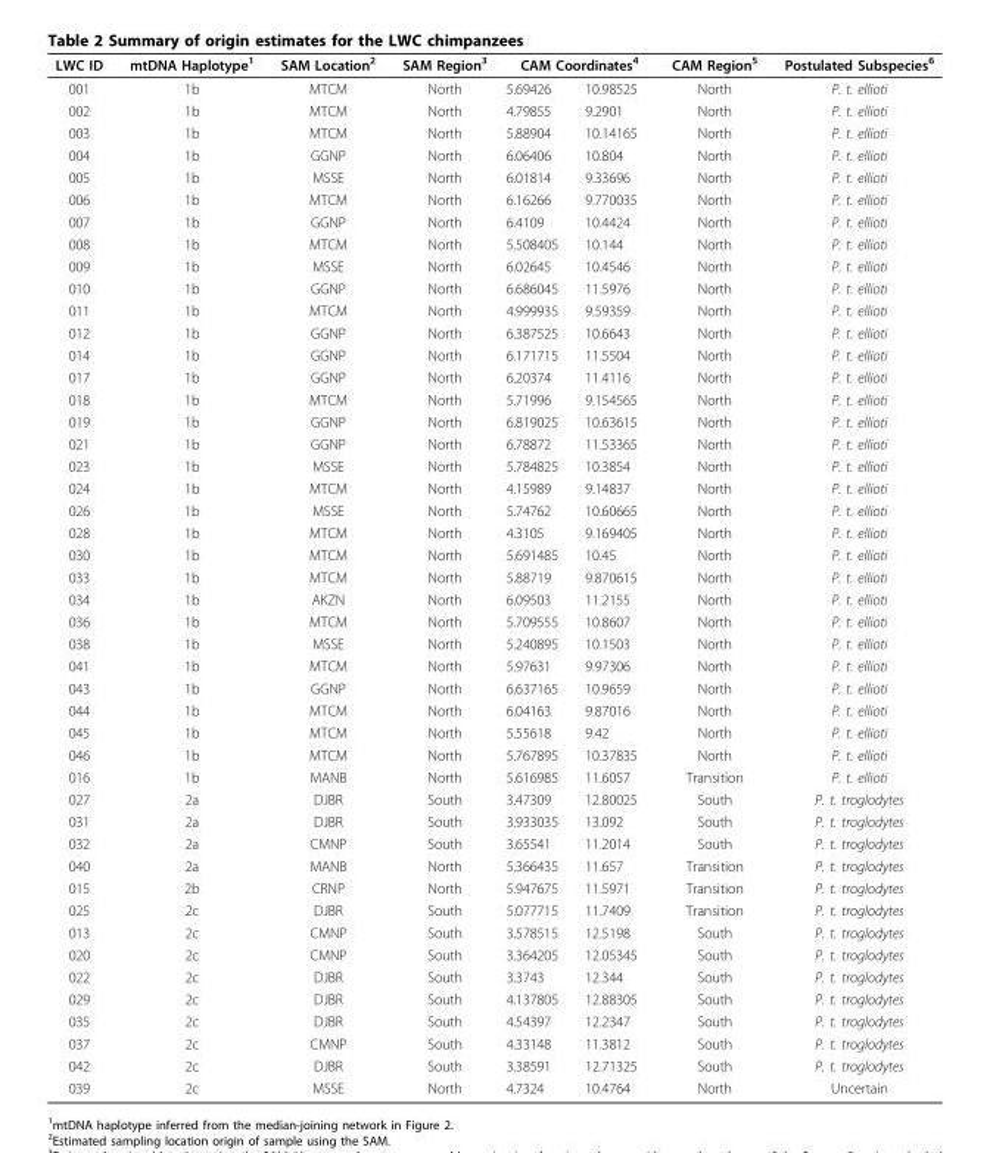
<table><thead><tr><td rowspan="2">LWC ID 001</td><td rowspan="2">mtDNA Haplotype<sup>1</sup> 1b</td><td rowspan="2">SAM Location<sup>2</sup> MTCM</td><td rowspan="2">SAM Region<sup>3</sup> North</td><td colspan="2">CAM Coordinates<sup>4</sup></td><td rowspan="2">CAM Region<sup>5</sup> North</td><td rowspan="2">Postulated Subspecies<sup>6</sup> P. t. ellioti</td></tr><tr><td>5.69426</td><td>10.98525</td></tr></thead><tbody><tr><td>002</td><td>1b</td><td>MTCM</td><td>North</td><td>4.79855</td><td>9.2901</td><td>North</td><td>P. t. ellioti</td></tr><tr><td>003</td><td>1b</td><td>MTCM</td><td>North</td><td>5.88904</td><td>10.14165</td><td>North</td><td>P. t. ellioti</td></tr><tr><td>004</td><td>1b</td><td>GGNP</td><td>North</td><td>6.06406</td><td>10.804</td><td>North</td><td>P. t. ellioti</td></tr><tr><td>005</td><td>1b</td><td>MSSE</td><td>North</td><td>6.01814</td><td>9.33696</td><td>North</td><td>P. t. ellioti</td></tr><tr><td>006</td><td>1b</td><td>MTCM</td><td>North</td><td>6.16266</td><td>9.770035</td><td>North</td><td>P. t. ellioti</td></tr><tr><td>007</td><td>1b</td><td>GGNP</td><td>North</td><td>6.4109</td><td>10.4424</td><td>North</td><td>P. t. ellioti</td></tr><tr><td>008</td><td>1b</td><td>MTCM</td><td>North</td><td>5.508405</td><td>10.144</td><td>North</td><td>P. t. ellioti</td></tr><tr><td>009</td><td>1b</td><td>MSSE</td><td>North</td><td>6.02645</td><td>10.4546</td><td>North</td><td>P. t. ellioti</td></tr><tr><td>010</td><td>1b</td><td>GGNP</td><td>North</td><td>6.686045</td><td>11.5976</td><td>North</td><td>P. t. ellioti</td></tr><tr><td>011</td><td>1b</td><td>MTCM</td><td>North</td><td>4.999935</td><td>9.59359</td><td>North</td><td>P. t. ellioti</td></tr><tr><td>012</td><td>1b</td><td>GGNP</td><td>North</td><td>6.387525</td><td>10.6643</td><td>North</td><td>P. t. ellioti</td></tr><tr><td>014</td><td>1b</td><td>GGNP</td><td>North</td><td>6.171715</td><td>11.5504</td><td>North</td><td>P. t. ellioti</td></tr><tr><td>017</td><td>1b</td><td>GGNP</td><td>North</td><td>6.20374</td><td>11.4116</td><td>North</td><td>P. t. ellioti</td></tr><tr><td>018</td><td>1b</td><td>MTCM</td><td>North</td><td>5.71996</td><td>9.154565</td><td>North</td><td>P. t. ellioti</td></tr><tr><td>019</td><td>1b</td><td>GGNP</td><td>North</td><td>6.819025</td><td>10.63615</td><td>North</td><td>P. t. ellioti</td></tr><tr><td>021</td><td>1b</td><td>GGNP</td><td>North</td><td>6.78872</td><td>11.53365</td><td>North</td><td>P. t. ellioti</td></tr><tr><td>023</td><td>1b</td><td>MSSE</td><td>North</td><td>5.784825</td><td>10.3854</td><td>North</td><td>P. t. ellioti</td></tr><tr><td>024</td><td>1b</td><td>MTCM</td><td>North</td><td>4.15989</td><td>9.14837</td><td>North</td><td>P. t. ellioti</td></tr><tr><td>026</td><td>1b</td><td>MSSE</td><td>North</td><td>5.74762</td><td>10.60665</td><td>North</td><td>P. t. ellioti</td></tr><tr><td>028</td><td>1b</td><td>MTCM</td><td>North</td><td>4.3105</td><td>9.169405</td><td>North</td><td>P. t. ellioti</td></tr><tr><td>030</td><td>1b</td><td>MTCM</td><td>North</td><td>5.691485</td><td>10.45</td><td>North</td><td>P. t. ellioti</td></tr><tr><td>033</td><td>1b</td><td>MTCM</td><td>North</td><td>5.88719</td><td>9.870615</td><td>North</td><td>P. t. ellioti</td></tr><tr><td>034</td><td>1b</td><td>AKZN</td><td>North</td><td>6.09503</td><td>11.2155</td><td>North</td><td>P. t. ellioti</td></tr><tr><td>036</td><td>1b</td><td>MTCM</td><td>North</td><td>5.709555</td><td>10.8607</td><td>North</td><td>P. t. ellioti</td></tr><tr><td>038</td><td>1b</td><td>MSSE</td><td>North</td><td>5.240895</td><td>10.1503</td><td>North</td><td>P. t. ellioti</td></tr><tr><td>041</td><td>1b</td><td>MTCM</td><td>North</td><td>5.97631</td><td>9.97306</td><td>North</td><td>P. t. ellioti</td></tr><tr><td>043</td><td>1b</td><td>GGNP</td><td>North</td><td>6.637165</td><td>10.9659</td><td>North</td><td>P. t. ellioti</td></tr><tr><td>044</td><td>1b</td><td>MTCM</td><td>North</td><td>6.04163</td><td>9.87016</td><td>North</td><td>P. t. ellioti</td></tr><tr><td>045</td><td>1b</td><td>MTCM</td><td>North</td><td>5.55618</td><td>9.42</td><td>North</td><td>P. t. ellioti</td></tr><tr><td>046</td><td>1b</td><td>MTCM</td><td>North</td><td>5.767895</td><td>10.37835</td><td>North</td><td>P. t. ellioti</td></tr><tr><td>016</td><td>1b</td><td>MANB</td><td>North</td><td>5.616985</td><td>11.6057</td><td>Transition</td><td>P. t. ellioti</td></tr><tr><td>027</td><td>2a</td><td>DJBR</td><td>South</td><td>3.47309</td><td>12.80025</td><td>South</td><td>P. t. troglodytes</td></tr><tr><td>031</td><td>2a</td><td>DJBR</td><td>South</td><td>3.933035</td><td>13.092</td><td>South</td><td>P. t. troglodytes</td></tr><tr><td>032</td><td>2a</td><td>CMNP</td><td>South</td><td>3.65541</td><td>11.2014</td><td>South</td><td>P. t. troglodytes</td></tr><tr><td>040</td><td>2a</td><td>MANB</td><td>North</td><td>5.366435</td><td>11.657</td><td>Transition</td><td>P. t. troglodytes</td></tr><tr><td>015</td><td>2b</td><td>CRNP</td><td>North</td><td>5.947675</td><td>11.5971</td><td>Transition</td><td>P. t. troglodytes</td></tr><tr><td>025</td><td>2c</td><td>DJBR</td><td>South</td><td>5.077715</td><td>11.7409</td><td>Transition</td><td>P. t. troglodytes</td></tr><tr><td>013</td><td>2c</td><td>CMNP</td><td>South</td><td>3.578515</td><td>12.5198</td><td>South</td><td>P. t. troglodytes</td></tr><tr><td>020</td><td>2c</td><td>CMNP</td><td>South</td><td>3.364205</td><td>12.05345</td><td>South</td><td>P. t. troglodytes</td></tr><tr><td>022</td><td>2c</td><td>DJBR</td><td>South</td><td>3.3743</td><td>12.344</td><td>South</td><td>P. t. troglodytes</td></tr><tr><td>029</td><td>2c</td><td>DJBR</td><td>South</td><td>4.137805</td><td>12.88305</td><td>South</td><td>P. t. troglodytes</td></tr><tr><td>035</td><td>2c</td><td>DJBR</td><td>South</td><td>4.54397</td><td>12.2347</td><td>South</td><td>P. t. troglodytes</td></tr><tr><td>037</td><td>2c</td><td>CMNP</td><td>South</td><td>4.33148</td><td>11.3812</td><td>South</td><td>P. t. troglodytes</td></tr><tr><td>042</td><td>2c</td><td>DJBR</td><td>South</td><td>3.38591</td><td>12.71325</td><td>South</td><td>P. t. troglodytes</td></tr><tr><td>039</td><td>2c</td><td>MSSE</td><td>North</td><td>4.7324</td><td>10.4764</td><td>North</td><td>Uncertain</td></tr></tbody></table>